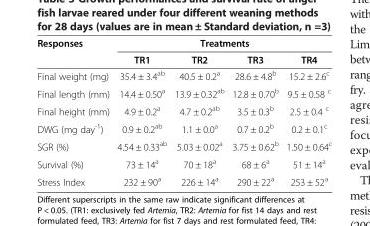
<table><thead><tr><td rowspan="2">Responses</td><td colspan="4">Treatments</td></tr><tr><td>TR1</td><td>TR2</td><td>TR3</td><td>TR4</td></tr></thead><tbody><tr><td>Final weight (mg)</td><td>35.4 ± 3.4<sup>ab</sup></td><td>40.5 ± 0.2<sup>a</sup></td><td>28.6 ± 4.8<sup>b</sup></td><td>15.2 ± 2.6<sup>c</sup></td></tr><tr><td>Final length (mm)</td><td>14.4 ± 0.50<sup>a</sup></td><td>13.9 ± 0.32<sup>ab</sup></td><td>12.8 ± 0.70<sup>b</sup></td><td>9.5 ± 0.58 <sup>c</sup></td></tr><tr><td>Final height (mm)</td><td>4.9 ± 0.2<sup>a</sup></td><td>4.7 ± 0.2<sup>ab</sup></td><td>3.5 ± 0.3<sup>b</sup></td><td>2.5 ± 0.4 <sup>c</sup></td></tr><tr><td>DWG (mg day<sup>-1</sup>)</td><td>0.9 ± 0.2<sup>ab</sup></td><td>1.1 ± 0.0<sup>a</sup></td><td>0.7 ± 0.2<sup>b</sup></td><td>0.2 ± 0.1<sup>c</sup></td></tr><tr><td>SGR (%)</td><td>4.54 ± 0.33<sup>ab</sup></td><td>5.03 ± 0.02<sup>a</sup></td><td>3.75 ± 0.62<sup>b</sup></td><td>1.50 ± 0.64<sup>c</sup></td></tr><tr><td>Survival (%)</td><td>73 ± 14<sup>a</sup></td><td>70 ± 18<sup>a</sup></td><td>68 ± 6<sup>a</sup></td><td>51 ± 14<sup>a</sup></td></tr><tr><td>Stress Index</td><td>232 ± 90<sup>a</sup></td><td>226 ± 14<sup>a</sup></td><td>290 ± 22<sup>a</sup></td><td>253 ± 52<sup>a</sup></td></tr></tbody></table>